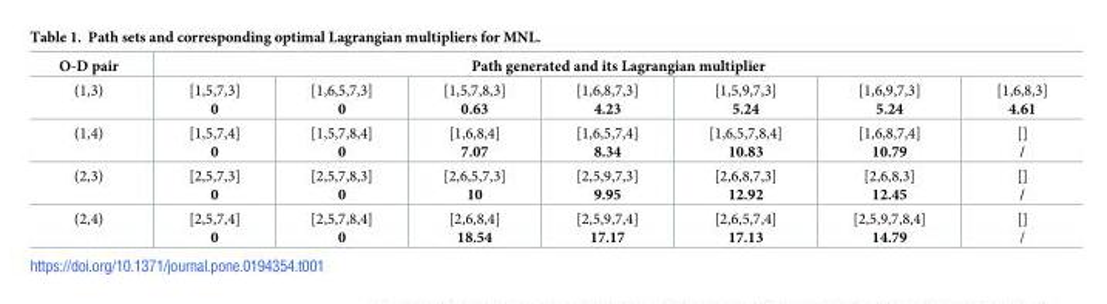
<table><thead><tr><td rowspan="2">O-D pair (1,3)</td><td colspan="7">Path generated and its Lagrangian multiplier</td></tr><tr><td>[1,5,7,3] 0</td><td>[1,6,5,7,3] 0</td><td>[1,5,7,8,3] 0.63</td><td>[1,6,8,7,3] 4.23</td><td>[1,5,9,7,3] 5.24</td><td>[1,6,9,7,3] 5.24</td><td>[1,6,8,3] 4.61</td></tr></thead><tbody><tr><td>(1,4)</td><td>[1,5,7,4] 0</td><td>[1,5,7,8,4] 0</td><td>[1,6,8,4] 7.07</td><td>[1,6,5,7,4] 8.34</td><td>[1,6,5,7,8,4] 10.83</td><td>[1,6,8,7,4] 10.79</td><td>[] /</td></tr><tr><td>(2,3)</td><td>[2,5,7,3] 0</td><td>[2,5,7,8,3] 0</td><td>[2,6,5,7,3] 10</td><td>[2,5,9,7,3] 9.95</td><td>[2,6,8,7,3] 12.92</td><td>[2,6,8,3] 12.45</td><td>[] /</td></tr><tr><td>(2,4)</td><td>[2,5,7,4] 0</td><td>[2,5,7,8,4] 0</td><td>[2,6,8,4] 18.54</td><td>[2,5,9,7,4] 17.17</td><td>[2,6,5,7,4] 17.13</td><td>[2,5,9,7,8,4] 14.79</td><td>[] /</td></tr></tbody></table>